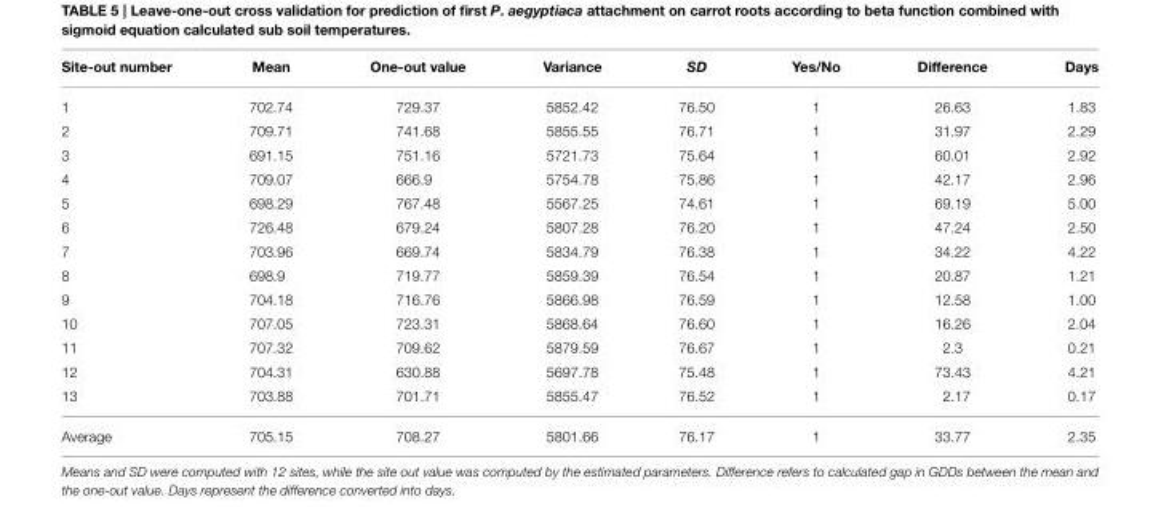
<table><thead><tr><td>Site-out number</td><td>Mean</td><td>One-out value</td><td>Variance</td><td>SD</td><td>Yes/No</td><td>Difference</td><td>Days</td></tr></thead><tbody><tr><td>1</td><td>702.74</td><td>729.37</td><td>5852.42</td><td>76.50</td><td>1</td><td>26.63</td><td>1.83</td></tr><tr><td>2</td><td>709.71</td><td>741.68</td><td>5855.55</td><td>76.71</td><td>1</td><td>31.97</td><td>2.29</td></tr><tr><td>3</td><td>691.15</td><td>751.16</td><td>5721.73</td><td>75.64</td><td>1</td><td>60.01</td><td>2.92</td></tr><tr><td>4</td><td>709.07</td><td>666.9</td><td>5754.78</td><td>75.86</td><td>1</td><td>42.17</td><td>2.96</td></tr><tr><td>5</td><td>698.29</td><td>767.48</td><td>5567.25</td><td>74.61</td><td>1</td><td>69.19</td><td>5.00</td></tr><tr><td>6</td><td>726.48</td><td>679.24</td><td>5807.28</td><td>76.20</td><td>1</td><td>47.24</td><td>2.50</td></tr><tr><td>7</td><td>703.96</td><td>669.74</td><td>5834.79</td><td>76.38</td><td>1</td><td>34.22</td><td>4.22</td></tr><tr><td>8</td><td>698.9</td><td>719.77</td><td>5859.39</td><td>76.54</td><td>1</td><td>20.87</td><td>1.21</td></tr><tr><td>9</td><td>704.18</td><td>716.76</td><td>5866.98</td><td>76.59</td><td>1</td><td>12.58</td><td>1.00</td></tr><tr><td>10</td><td>707.05</td><td>723.31</td><td>5868.64</td><td>76.60</td><td>1</td><td>16.26</td><td>2.04</td></tr><tr><td>11</td><td>707.32</td><td>709.62</td><td>5879.59</td><td>76.67</td><td>1</td><td>2.3</td><td>0.21</td></tr><tr><td>12</td><td>704.31</td><td>630.88</td><td>5697.78</td><td>75.48</td><td>1</td><td>73.43</td><td>4.21</td></tr><tr><td>13</td><td>703.88</td><td>701.71</td><td>5855.47</td><td>76.52</td><td>1</td><td>2.17</td><td>0.17</td></tr><tr><td>Average</td><td>705.15</td><td>708.27</td><td>5801.66</td><td>76.17</td><td>1</td><td>33.77</td><td>2.35</td></tr></tbody></table>